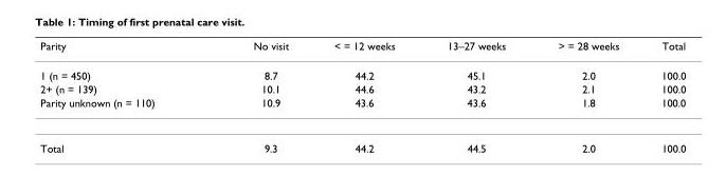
<table><thead><tr><td>Parity</td><td>No visit</td><td>&lt; = 12 weeks</td><td>13–27 weeks</td><td>&gt; = 28 weeks</td><td>Total</td></tr></thead><tbody><tr><td>1 (n = 450)</td><td>8.7</td><td>44.2</td><td>45.1</td><td>2.0</td><td>100.0</td></tr><tr><td>2+ (n = 139)</td><td>10.1</td><td>44.6</td><td>43.2</td><td>2.1</td><td>100.0</td></tr><tr><td>Parity unknown (n = 110)</td><td>10.9</td><td>43.6</td><td>43.6</td><td>1.8</td><td>100.0</td></tr><tr><td>Total</td><td>9.3</td><td>44.2</td><td>44.5</td><td>2.0</td><td>100.0</td></tr></tbody></table>